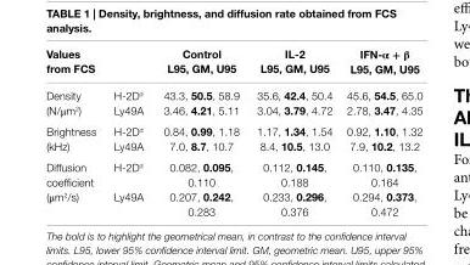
<table><thead><tr><td>Values from Fcs</td><td></td><td>control l95, gM, U95</td><td>il-2 l95, gM, U95</td><td>iFn-α + β l95, gM, U95</td></tr></thead><tbody><tr><td rowspan="2">Density (N/μm<sup>2</sup>)</td><td>H-2D<sup>d</sup></td><td>43.3, 50.5, 58.9</td><td>35.6, 42.4, 50.4</td><td>45.6, 54.5, 65.0</td></tr><tr><td>Ly49A</td><td>3.46, 4.21, 5.11</td><td>3.04, 3.79, 4.72</td><td>2.78, 3.47, 4.35</td></tr><tr><td rowspan="2">Brightness (kHz)</td><td>H-2D<sup>d</sup></td><td>0.84, 0.99, 1.18</td><td>1.17, 1.34, 1.54</td><td>0.92, 1.10, 1.32</td></tr><tr><td>Ly49A</td><td>7.0, 8.7, 10.7</td><td>8.4, 10.5, 13.0</td><td>7.9, 10.2, 13.2</td></tr><tr><td rowspan="2">Diffusion coefficient (μm<sup>2</sup>/s)</td><td>H-2D<sup>d</sup></td><td>0.082, 0.095, 0.110</td><td>0.112, 0.145, 0.188</td><td>0.110, 0.135, 0.164</td></tr><tr><td>Ly49A</td><td>0.207, 0.242, 0.283</td><td>0.233, 0.296, 0.376</td><td>0.294, 0.373, 0.472</td></tr></tbody></table>